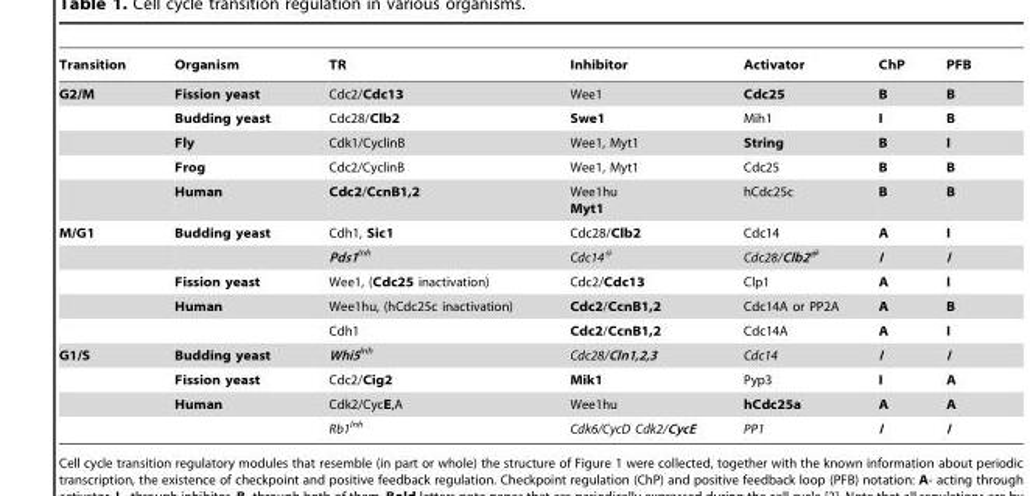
<table><thead><tr><td>Transition</td><td>Organism</td><td>TR</td><td>Inhibitor</td><td>Activator</td><td>ChP</td><td>PFB</td></tr></thead><tbody><tr><td rowspan="5">G2/M</td><td>Fission yeast</td><td>Cdc2/Cdc13</td><td>Wee1</td><td>Cdc25</td><td>B</td><td>B</td></tr><tr><td>Budding yeast</td><td>Cdc28/Clb2</td><td>Swe1</td><td>Mih1</td><td>I</td><td>B</td></tr><tr><td>Fly</td><td>Cdk1/CyclinB</td><td>Wee1, Myt1</td><td>String</td><td>B</td><td>I</td></tr><tr><td>Frog</td><td>Cdc2/CyclinB</td><td>Wee1, Myt1</td><td>Cdc25</td><td>B</td><td>B</td></tr><tr><td>Human</td><td>Cdc2/CcnB1,2</td><td>Wee1hu Myt1</td><td>hCdc25c</td><td>B</td><td>B</td></tr><tr><td rowspan="5">M/G1</td><td>Budding yeast</td><td>Cdh1, Sic1</td><td>Cdc28/Clb2</td><td>Cdc14</td><td>A</td><td>I</td></tr><tr><td></td><td>Pds1<sup>Inh</sup></td><td>Cdc14<sup>#</sup></td><td>Cdc28/Clb2<sup>#</sup></td><td>I</td><td>I</td></tr><tr><td>Fission yeast</td><td>Wee1, (Cdc25 inactivation)</td><td>Cdc2/Cdc13</td><td>Clp1</td><td>A</td><td>I</td></tr><tr><td>Human</td><td>Wee1hu, (hCdc25c inactivation)</td><td>Cdc2/CcnB1,2</td><td>Cdc14A or PP2A</td><td>A</td><td>B</td></tr><tr><td></td><td>Cdh1</td><td>Cdc2/CcnB1,2</td><td>Cdc14A</td><td>A</td><td>I</td></tr><tr><td rowspan="4">G1/S</td><td>Budding yeast</td><td>Whi5<sup>Inh</sup></td><td>Cdc28/Cln1,2,3</td><td>Cdc14</td><td>I</td><td>I</td></tr><tr><td>Fission yeast</td><td>Cdc2/Cig2</td><td>Mik1</td><td>Pyp3</td><td>I</td><td>A</td></tr><tr><td>Human</td><td>Cdk2/CycE,A</td><td>Wee1hu</td><td>hCdc25a</td><td>A</td><td>A</td></tr><tr><td></td><td>Rb1<sup>Inh</sup></td><td>Cdk6/CycD Cdk2/CycE</td><td>PP1</td><td>I</td><td>I</td></tr></tbody></table>